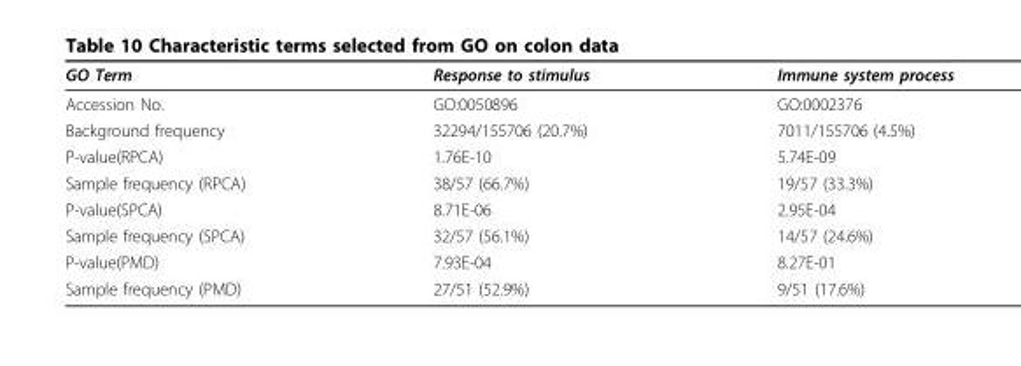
<table><thead><tr><td>GO Term</td><td>Response to stimulus</td><td>Immune system process</td></tr></thead><tbody><tr><td>Accession No.</td><td>GO:0050896</td><td>GO:0002376</td></tr><tr><td>Background frequency</td><td>32294/155706 (20.7%)</td><td>7011/155706 (4.5%)</td></tr><tr><td>P-value(RPCA)</td><td>1.76E-10</td><td>5.74E-09</td></tr><tr><td>Sample frequency (RPCA)</td><td>38/57 (66.7%)</td><td>19/57 (33.3%)</td></tr><tr><td>P-value(SPCA)</td><td>8.71E-06</td><td>2.95E-04</td></tr><tr><td>Sample frequency (SPCA)</td><td>32/57 (56.1%)</td><td>14/57 (24.6%)</td></tr><tr><td>P-value(PMD)</td><td>7.93E-04</td><td>8.27E-01</td></tr><tr><td>Sample frequency (PMD)</td><td>27/51 (52.9%)</td><td>9/51 (17.6%)</td></tr></tbody></table>